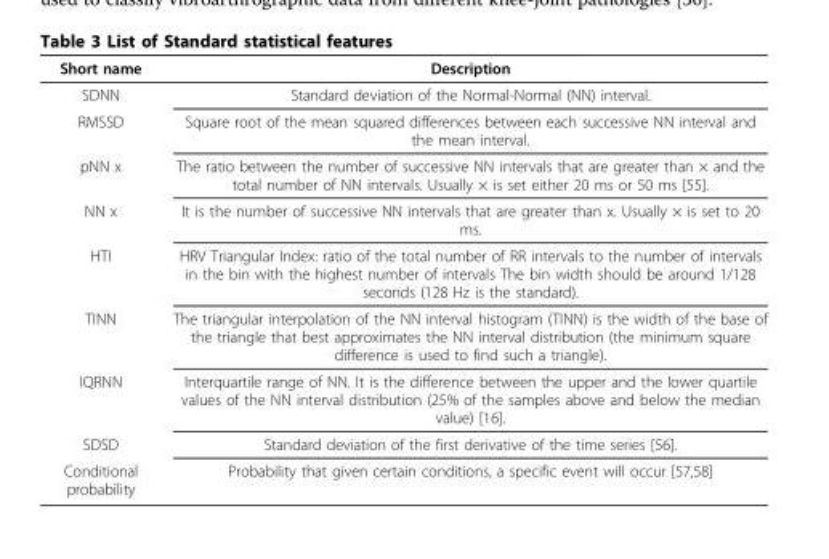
<table><thead><tr><td>Short name</td><td>Description</td></tr></thead><tbody><tr><td>SDNN</td><td>Standard deviation of the Normal-Normal (NN) interval.</td></tr><tr><td>RMSSD</td><td>Square root of the mean squared differences between each successive NN interval and the mean interval.</td></tr><tr><td>pNN x</td><td>The ratio between the number of successive NN intervals that are greater than × and the total number of NN intervals. Usually × is set either 20 ms or 50 ms [55].</td></tr><tr><td>NN x</td><td>It is the number of successive NN intervals that are greater than x. Usually × is set to 20 ms.</td></tr><tr><td>HTI</td><td>HRV Triangular Index: ratio of the total number of RR intervals to the number of intervals in the bin with the highest number of intervals The bin width should be around 1/128 seconds (128 Hz is the standard).</td></tr><tr><td>TINN</td><td>The triangular interpolation of the NN interval histogram (TINN) is the width of the base of the triangle that best approximates the NN interval distribution (the minimum square difference is used to find such a triangle).</td></tr><tr><td>IQRNN</td><td>Interquartile range of NN. It is the difference between the upper and the lower quartile values of the NN interval distribution (25% of the samples above and below the median value) [16].</td></tr><tr><td>SDSD</td><td>Standard deviation of the first derivative of the time series [56].</td></tr><tr><td>Conditional probability</td><td>Probability that given certain conditions, a specific event will occur [57,58]</td></tr></tbody></table>